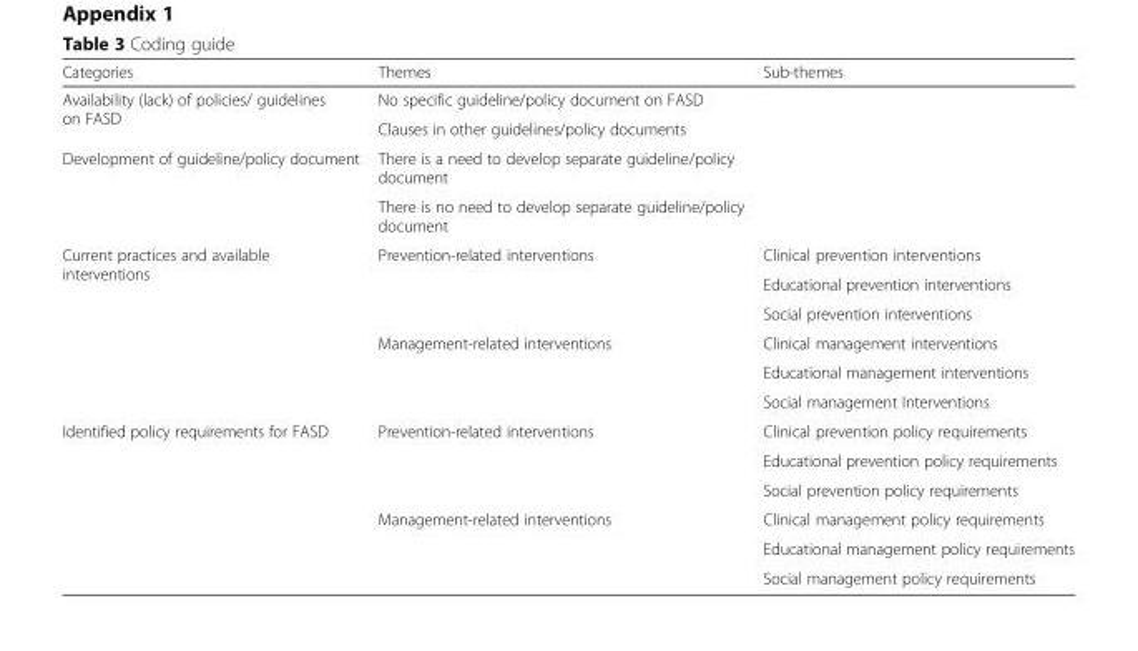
<table><thead><tr><td>Categories</td><td>Themes</td><td>Sub-themes</td></tr></thead><tbody><tr><td rowspan="2">Availability (lack) of policies/ guidelines on FASD</td><td>No specific guideline/policy document on FASD</td><td></td></tr><tr><td>Clauses in other guidelines/policy documents</td><td></td></tr><tr><td rowspan="2">Development of guideline/policy document</td><td>There is a need to develop separate guideline/policy document</td><td></td></tr><tr><td>There is no need to develop separate guideline/policy document</td><td></td></tr><tr><td rowspan="6">Current practices and available interventions</td><td rowspan="3">Prevention-related interventions</td><td>Clinical prevention interventions</td></tr><tr><td>Educational prevention interventions</td></tr><tr><td>Social prevention interventions</td></tr><tr><td rowspan="3">Management-related interventions</td><td>Clinical management interventions</td></tr><tr><td>Educational management interventions</td></tr><tr><td>Social management Interventions</td></tr><tr><td rowspan="6">Identified policy requirements for FASD</td><td rowspan="3">Prevention-related interventions</td><td>Clinical prevention policy requirements</td></tr><tr><td>Educational prevention policy requirements</td></tr><tr><td>Social prevention policy requirements</td></tr><tr><td rowspan="3">Management-related interventions</td><td>Clinical management policy requirements</td></tr><tr><td>Educational management policy requirements</td></tr><tr><td>Social management policy requirements</td></tr></tbody></table>